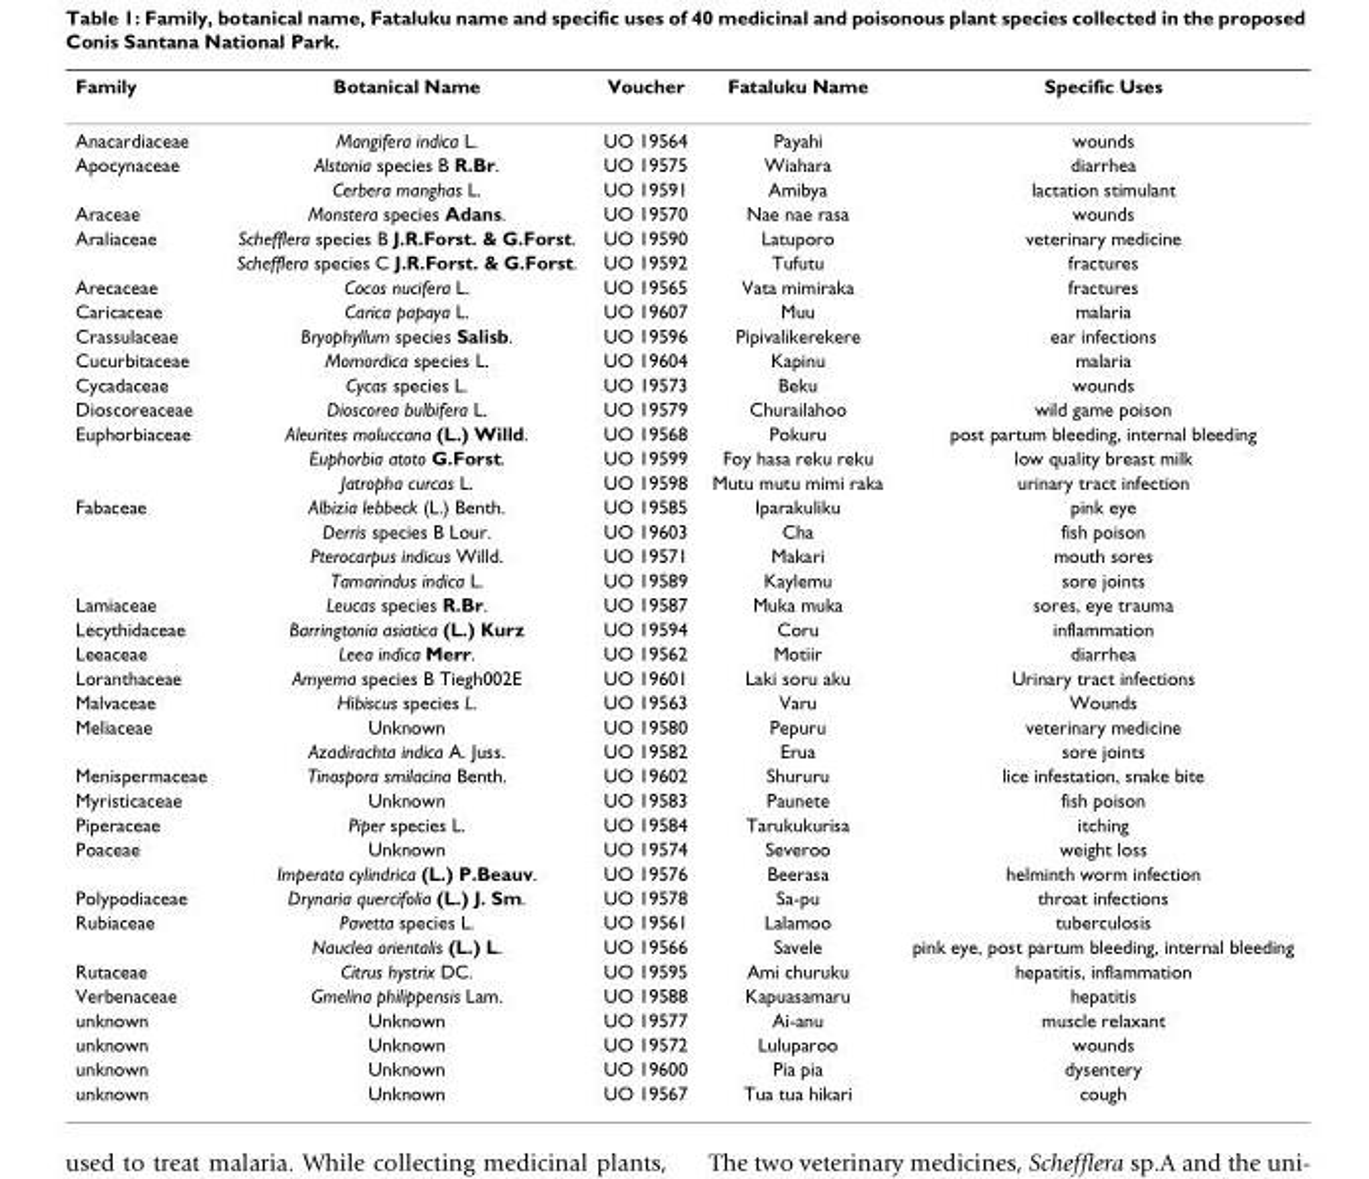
<table><thead><tr><td>Family</td><td>Botanical Name</td><td>Voucher</td><td>Fataluku Name</td><td>Specific Uses</td></tr></thead><tbody><tr><td>Anacardiaceae</td><td>Mangifera indica L.</td><td>UO 19564</td><td>Payahi</td><td>wounds</td></tr><tr><td rowspan="2">Apocynaceae</td><td>Alstonia species B R.Br.</td><td>UO 19575</td><td>Wiahara</td><td>diarrhea</td></tr><tr><td>Cerbera manghas L.</td><td>UO 19591</td><td>Amibya</td><td>lactation stimulant</td></tr><tr><td>Araceae</td><td>Monstera species Adans.</td><td>UO 19570</td><td>Nae nae rasa</td><td>wounds</td></tr><tr><td rowspan="2">Araliaceae</td><td>Schefflera species B J.R.Forst. &amp; G.Forst.</td><td>UO 19590</td><td>Latuporo</td><td>veterinary medicine</td></tr><tr><td>Schefflera species C J.R.Forst. &amp; G.Forst.</td><td>UO 19592</td><td>Tufutu</td><td>fractures</td></tr><tr><td>Arecaceae</td><td>Cocos nucifera L.</td><td>UO 19565</td><td>Vata mimiraka</td><td>fractures</td></tr><tr><td>Caricaceae</td><td>Carica papaya L.</td><td>UO 19607</td><td>Muu</td><td>malaria</td></tr><tr><td>Crassulaceae</td><td>Bryophyllum species Salisb.</td><td>UO 19596</td><td>Pipivalikerekere</td><td>ear infections</td></tr><tr><td>Cucurbitaceae</td><td>Momordica species L.</td><td>UO 19604</td><td>Kapinu</td><td>malaria</td></tr><tr><td>Cycadaceae</td><td>Cycas species L.</td><td>UO 19573</td><td>Beku</td><td>wounds</td></tr><tr><td>Dioscoreaceae</td><td>Dioscorea bulbifera L.</td><td>UO 19579</td><td>Churailahoo</td><td>wild game poison</td></tr><tr><td rowspan="3">Euphorbiaceae</td><td>Aleurites moluccana (L.) Willd.</td><td>UO 19568</td><td>Pokuru</td><td>post partum bleeding, internal bleeding</td></tr><tr><td>Euphorbia atoto G.Forst.</td><td>UO 19599</td><td>Foy hasa reku reku</td><td>low quality breast milk</td></tr><tr><td>Jatropha curcas L.</td><td>UO 19598</td><td>Mutu mutu mimi raka</td><td>urinary tract infection</td></tr><tr><td rowspan="4">Fabaceae</td><td>Albizia lebbeck (L.) Benth.</td><td>UO 19585</td><td>Iparakuliku</td><td>pink eye</td></tr><tr><td>Derris species B Lour.</td><td>UO 19603</td><td>Cha</td><td>fish poison</td></tr><tr><td>Pterocarpus indicus Willd.</td><td>UO 19571</td><td>Makari</td><td>mouth sores</td></tr><tr><td>Tamarindus indica L.</td><td>UO 19589</td><td>Kaylemu</td><td>sore joints</td></tr><tr><td>Lamiaceae</td><td>Leucas species R.Br.</td><td>UO 19587</td><td>Muka muka</td><td>sores, eye trauma</td></tr><tr><td>Lecythidaceae</td><td>Barringtonia asiatica (L.) Kurz</td><td>UO 19594</td><td>Coru</td><td>inflammation</td></tr><tr><td>Leeaceae</td><td>Leea indica Merr.</td><td>UO 19562</td><td>Motiir</td><td>diarrhea</td></tr><tr><td>Loranthaceae</td><td>Amyema species B Tiegh002E</td><td>UO 19601</td><td>Laki soru aku</td><td>Urinary tract infections</td></tr><tr><td>Malvaceae</td><td>Hibiscus species L.</td><td>UO 19563</td><td>Varu</td><td>Wounds</td></tr><tr><td rowspan="2">Meliaceae</td><td>Unknown</td><td>UO 19580</td><td>Pepuru</td><td>veterinary medicine</td></tr><tr><td>Azadirachta indica A. Juss.</td><td>UO 19582</td><td>Erua</td><td>sore joints</td></tr><tr><td>Menispermaceae</td><td>Tinospora smilacina Benth.</td><td>UO 19602</td><td>Shururu</td><td>lice infestation, snake bite</td></tr><tr><td>Myristicaceae</td><td>Unknown</td><td>UO 19583</td><td>Paunete</td><td>fish poison</td></tr><tr><td>Piperaceae</td><td>Piper species L.</td><td>UO 19584</td><td>Tarukukurisa</td><td>itching</td></tr><tr><td rowspan="2">Poaceae</td><td>Unknown</td><td>UO 19574</td><td>Severoo</td><td>weight loss</td></tr><tr><td>Imperata cylindrica (L.) P.Beauv.</td><td>UO 19576</td><td>Beerasa</td><td>helminth worm infection</td></tr><tr><td>Polypodiaceae</td><td>Drynaria quercifolia (L.) J. Sm.</td><td>UO 19578</td><td>Sa-pu</td><td>throat infections</td></tr><tr><td rowspan="2">Rubiaceae</td><td>Pavetta species L.</td><td>UO 19561</td><td>Lalamoo</td><td>tuberculosis</td></tr><tr><td>Nauclea orientalis (L.) L.</td><td>UO 19566</td><td>Savele</td><td>pink eye, post partum bleeding, internal bleeding</td></tr><tr><td>Rutaceae</td><td>Citrus hystrix DC.</td><td>UO 19595</td><td>Ami churuku</td><td>hepatitis, inflammation</td></tr><tr><td>Verbenaceae</td><td>Gmelina philippensis Lam.</td><td>UO 19588</td><td>Kapuasamaru</td><td>hepatitis</td></tr><tr><td>unknown</td><td>Unknown</td><td>UO 19577</td><td>Ai-anu</td><td>muscle relaxant</td></tr><tr><td>unknown</td><td>Unknown</td><td>UO 19572</td><td>Luluparoo</td><td>wounds</td></tr><tr><td>unknown</td><td>Unknown</td><td>UO 19600</td><td>Pia pia</td><td>dysentery</td></tr><tr><td>unknown</td><td>Unknown</td><td>UO 19567</td><td>Tua tua hikari</td><td>cough</td></tr></tbody></table>